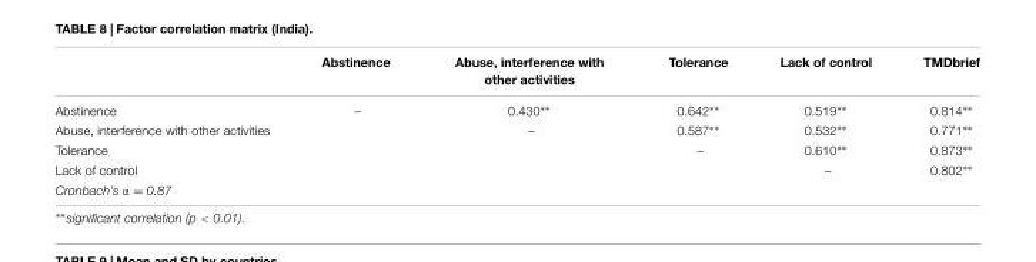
<table><thead><tr><td></td><td>Abstinence</td><td>Abuse, interference with other activities</td><td>Tolerance</td><td>Lack of control</td><td>TMDbrief</td></tr></thead><tbody><tr><td>Abstinence</td><td>–</td><td>0.430∗∗</td><td>0.642∗∗</td><td>0.519∗∗</td><td>0.814∗∗</td></tr><tr><td>Abuse, interference with other activities</td><td></td><td>–</td><td>0.587∗∗</td><td>0.532∗∗</td><td>0.771∗∗</td></tr><tr><td>Tolerance</td><td></td><td></td><td>–</td><td>0.610∗∗</td><td>0.873∗∗</td></tr><tr><td>Lack of control</td><td></td><td></td><td></td><td>–</td><td>0.802∗∗</td></tr><tr><td>Cronbach’s α = 0.87</td><td></td><td></td><td></td><td></td><td></td></tr></tbody></table>